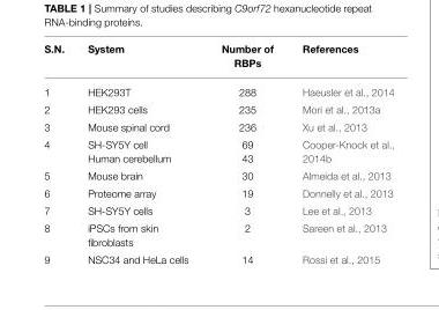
<table><thead><tr><td>S.N.</td><td>System</td><td>Number of RBPs</td><td>References</td></tr></thead><tbody><tr><td>1</td><td>HEK293T</td><td>288</td><td>Haeusler et al., 2014</td></tr><tr><td>2</td><td>HEK293 cells</td><td>235</td><td>Mori et al., 2013a</td></tr><tr><td>3</td><td>Mouse spinal cord</td><td>236</td><td>Xu et al., 2013</td></tr><tr><td>4</td><td>SH-SY5Y cell Human cerebellum</td><td>69 43</td><td>Cooper-Knock et al., 2014b</td></tr><tr><td>5</td><td>Mouse brain</td><td>30</td><td>Almeida et al., 2013</td></tr><tr><td>6</td><td>Proteome array</td><td>19</td><td>Donnelly et al., 2013</td></tr><tr><td>7</td><td>SH-SY5Y cells</td><td>3</td><td>Lee et al., 2013</td></tr><tr><td>8</td><td>iPSCs from skin fibroblasts</td><td>2</td><td>Sareen et al., 2013</td></tr><tr><td>9</td><td>NSC34 and HeLa cells</td><td>14</td><td>Rossi et al., 2015</td></tr></tbody></table>